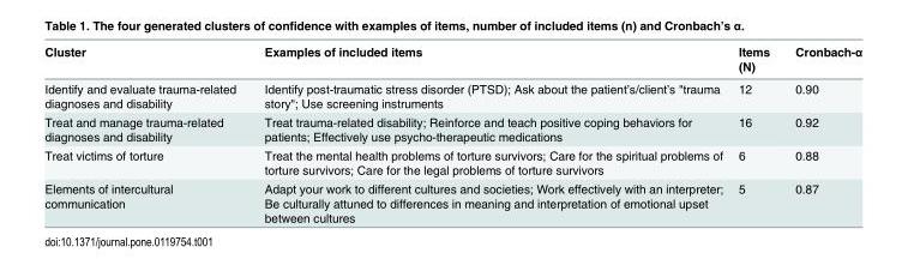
<table><thead><tr><td>Cluster</td><td>Examples of included items</td><td>Items (N)</td><td>Cronbach-α</td></tr></thead><tbody><tr><td>Identify and evaluate trauma-related diagnoses and disability</td><td>Identify post-traumatic stress disorder (PTSD); Ask about the patient’s/client’s &quot;trauma story&quot;; Use screening instruments</td><td>12</td><td>0.90</td></tr><tr><td>Treat and manage trauma-related diagnoses and disability</td><td>Treat trauma-related disability; Reinforce and teach positive coping behaviors for patients; Effectively use psycho-therapeutic medications</td><td>16</td><td>0.92</td></tr><tr><td>Treat victims of torture</td><td>Treat the mental health problems of torture survivors; Care for the spiritual problems of torture survivors; Care for the legal problems of torture survivors</td><td>6</td><td>0.88</td></tr><tr><td>Elements of intercultural communication</td><td>Adapt your work to different cultures and societies; Work effectively with an interpreter; Be culturally attuned to differences in meaning and interpretation of emotional upset between cultures</td><td>5</td><td>0.87</td></tr></tbody></table>